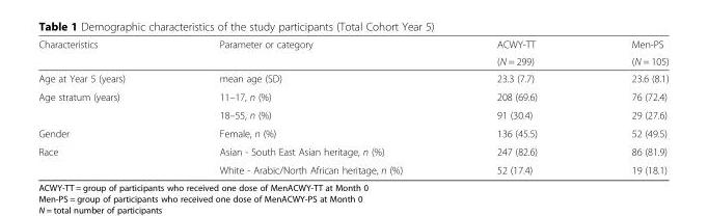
<table><thead><tr><td rowspan="2">Characteristics</td><td rowspan="2">Parameter or category</td><td rowspan="2">ACWY-TT (N = 299)</td><td rowspan="2">Men-PS (N = 105)</td></tr><tr></tr></thead><tbody><tr><td>Age at Year 5 (years)</td><td>mean age (SD)</td><td>23.3 (7.7)</td><td>23.6 (8.1)</td></tr><tr><td rowspan="2">Age stratum (years)</td><td>11–17, n (%)</td><td>208 (69.6)</td><td>76 (72.4)</td></tr><tr><td>18–55, n (%)</td><td>91 (30.4)</td><td>29 (27.6)</td></tr><tr><td>Gender</td><td>Female, n (%)</td><td>136 (45.5)</td><td>52 (49.5)</td></tr><tr><td rowspan="2">Race</td><td>Asian - South East Asian heritage, n (%)</td><td>247 (82.6)</td><td>86 (81.9)</td></tr><tr><td>White - Arabic/North African heritage, n (%)</td><td>52 (17.4)</td><td>19 (18.1)</td></tr></tbody></table>